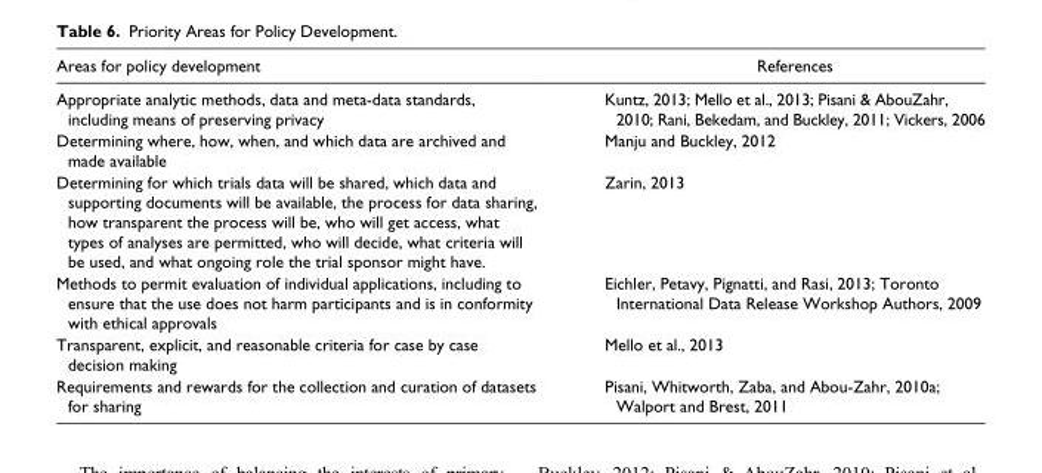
<table><thead><tr><td>Areas for policy development</td><td>References</td></tr></thead><tbody><tr><td>Appropriate analytic methods, data and meta-data standards, including means of preserving privacy</td><td>Kuntz, 2013; Mello et al., 2013; Pisani &amp; AbouZahr, 2010; Rani, Bekedam, and Buckley, 2011; Vickers, 2006</td></tr><tr><td>Determining where, how, when, and which data are archived and made available</td><td>Manju and Buckley, 2012</td></tr><tr><td>Determining for which trials data will be shared, which data and supporting documents will be available, the process for data sharing, how transparent the process will be, who will get access, what types of analyses are permitted, who will decide, what criteria will be used, and what ongoing role the trial sponsor might have.</td><td>Zarin, 2013</td></tr><tr><td>Methods to permit evaluation of individual applications, including to ensure that the use does not harm participants and is in conformity with ethical approvals</td><td>Eichler, Petavy, Pignatti, and Rasi, 2013; Toronto International Data Release Workshop Authors, 2009</td></tr><tr><td>Transparent, explicit, and reasonable criteria for case by case decision making</td><td>Mello et al., 2013</td></tr><tr><td>Requirements and rewards for the collection and curation of datasets for sharing</td><td>Pisani, Whitworth, Zaba, and Abou-Zahr, 2010a; Walport and Brest, 2011</td></tr></tbody></table>